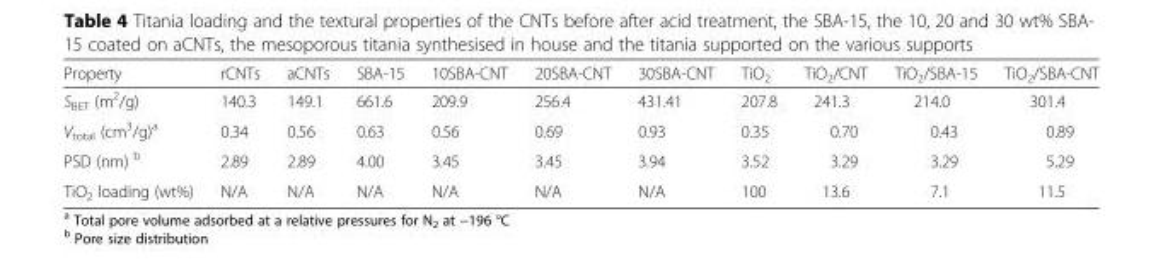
<table><thead><tr><td>Property</td><td>rCNTs</td><td>aCNTs</td><td>SBA-15</td><td>10SBA-CNT</td><td>20SBA-CNT</td><td>30SBA-CNT</td><td>TiO<sub>2</sub></td><td>TiO<sub>2</sub>/CNT</td><td>TiO<sub>2</sub>/SBA-15</td><td>TiO<sub>2</sub>/SBA-CNT</td></tr></thead><tbody><tr><td>S<sub>BET</sub> (m<sup>2</sup>/g)</td><td>140.3</td><td>149.1</td><td>661.6</td><td>209.9</td><td>256.4</td><td>431.41</td><td>207.8</td><td>241.3</td><td>214.0</td><td>301.4</td></tr><tr><td>V<sub>total</sub> (cm<sup>3</sup>/g)<sup>a</sup></td><td>0.34</td><td>0.56</td><td>0.63</td><td>0.56</td><td>0.69</td><td>0.93</td><td>0.35</td><td>0.70</td><td>0.43</td><td>0.89</td></tr><tr><td>PSD (nm) <sup>b</sup></td><td>2.89</td><td>2.89</td><td>4.00</td><td>3.45</td><td>3.45</td><td>3.94</td><td>3.52</td><td>3.29</td><td>3.29</td><td>5.29</td></tr><tr><td>TiO<sub>2</sub> loading (wt%)</td><td>N/A</td><td>N/A</td><td>N/A</td><td>N/A</td><td>N/A</td><td>N/A</td><td>100</td><td>13.6</td><td>7.1</td><td>11.5</td></tr></tbody></table>